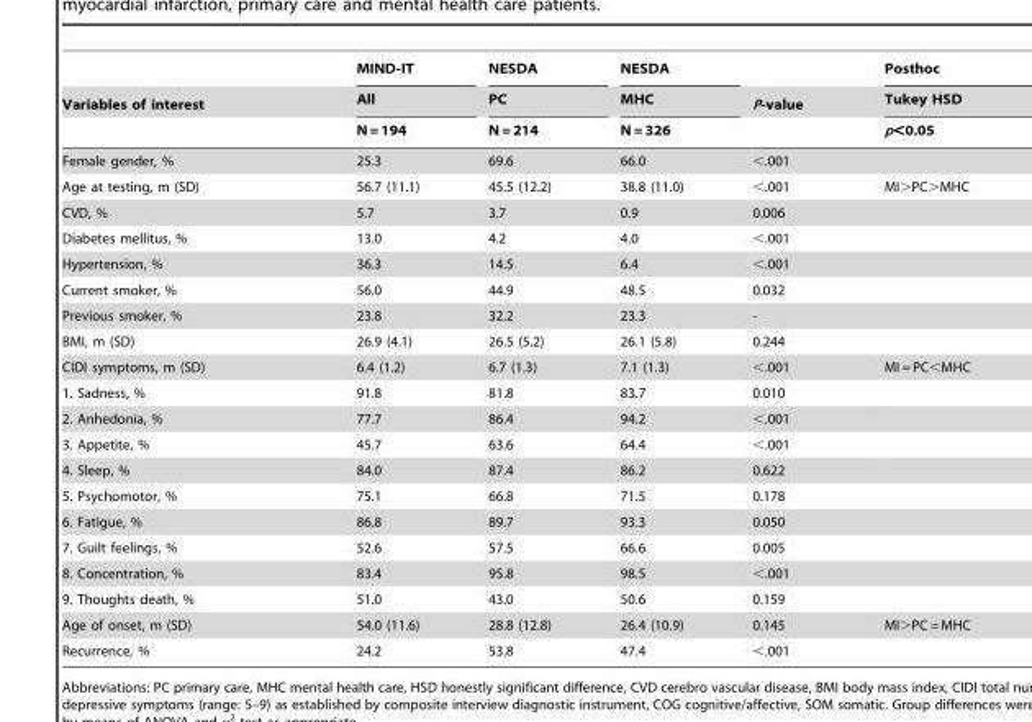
<table><thead><tr><td rowspan="3">Variables of interest</td><td rowspan="3">MIND-IT All N = 194</td><td rowspan="3">NESDA PC N = 214</td><td rowspan="3">NESDA MHC N = 326</td><td rowspan="3">P-value</td><td rowspan="3">Posthoc Tukey HSD p&lt;0.05</td></tr><tr></tr><tr></tr></thead><tbody><tr><td>Female gender, %</td><td>25.3</td><td>69.6</td><td>66.0</td><td>&lt;.001</td><td></td></tr><tr><td>Age at testing, m (SD)</td><td>56.7 (11.1)</td><td>45.5 (12.2)</td><td>38.8 (11.0)</td><td>&lt;.001</td><td>MI&gt;PC&gt;MHC</td></tr><tr><td>CVD, %</td><td>5.7</td><td>3.7</td><td>0.9</td><td>0.006</td><td></td></tr><tr><td>Diabetes mellitus, %</td><td>13.0</td><td>4.2</td><td>4.0</td><td>&lt;.001</td><td></td></tr><tr><td>Hypertension, %</td><td>36.3</td><td>14.5</td><td>6.4</td><td>&lt;.001</td><td></td></tr><tr><td>Current smoker, %</td><td>56.0</td><td>44.9</td><td>48.5</td><td>0.032</td><td></td></tr><tr><td>Previous smoker, %</td><td>23.8</td><td>32.2</td><td>23.3</td><td>-</td><td></td></tr><tr><td>BMI, m (SD)</td><td>26.9 (4.1)</td><td>26.5 (5.2)</td><td>26.1 (5.8)</td><td>0.244</td><td></td></tr><tr><td>CIDI symptoms, m (SD)</td><td>6.4 (1.2)</td><td>6.7 (1.3)</td><td>7.1 (1.3)</td><td>&lt;.001</td><td>MI = PC&lt;MHC</td></tr><tr><td>1. Sadness, %</td><td>91.8</td><td>81.8</td><td>83.7</td><td>0.010</td><td></td></tr><tr><td>2. Anhedonia, %</td><td>77.7</td><td>86.4</td><td>94.2</td><td>&lt;.001</td><td></td></tr><tr><td>3. Appetite, %</td><td>45.7</td><td>63.6</td><td>64.4</td><td>&lt;.001</td><td></td></tr><tr><td>4. Sleep, %</td><td>84.0</td><td>87.4</td><td>86.2</td><td>0.622</td><td></td></tr><tr><td>5. Psychomotor, %</td><td>75.1</td><td>66.8</td><td>71.5</td><td>0.178</td><td></td></tr><tr><td>6. Fatigue, %</td><td>86.8</td><td>89.7</td><td>93.3</td><td>0.050</td><td></td></tr><tr><td>7. Guilt feelings, %</td><td>52.6</td><td>57.5</td><td>66.6</td><td>0.005</td><td></td></tr><tr><td>8. Concentration, %</td><td>83.4</td><td>95.8</td><td>98.5</td><td>&lt;.001</td><td></td></tr><tr><td>9. Thoughts death, %</td><td>51.0</td><td>43.0</td><td>50.6</td><td>0.159</td><td></td></tr><tr><td>Age of onset, m (SD)</td><td>54.0 (11.6)</td><td>28.8 (12.8)</td><td>26.4 (10.9)</td><td>0.145</td><td>MI&gt;PC = MHC</td></tr><tr><td>Recurrence, %</td><td>24.2</td><td>53.8</td><td>47.4</td><td>&lt;.001</td><td></td></tr></tbody></table>